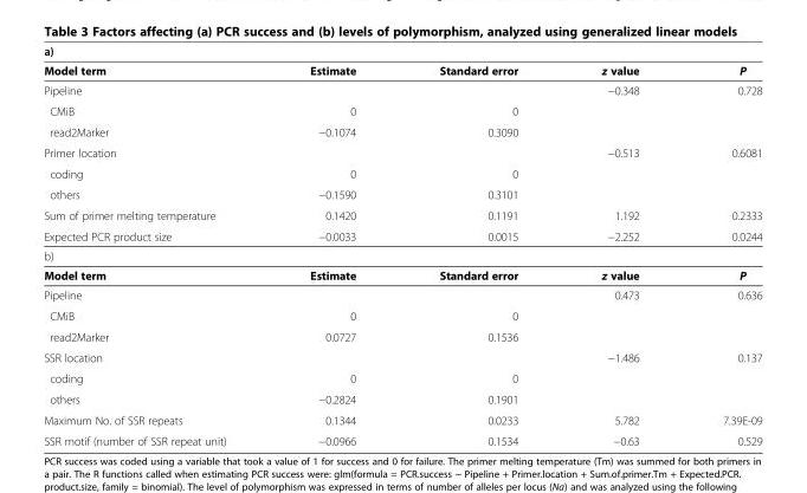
<table><thead><tr><td>a)</td><td></td><td></td><td></td><td></td></tr></thead><tbody><tr><td>Model term</td><td>Estimate</td><td>Standard error</td><td>z value</td><td>P</td></tr><tr><td>Pipeline</td><td></td><td></td><td>−0.348</td><td>0.728</td></tr><tr><td>CMiB</td><td>0</td><td>0</td><td></td><td></td></tr><tr><td>read2Marker</td><td>−0.1074</td><td>0.3090</td><td></td><td></td></tr><tr><td>Primer location</td><td></td><td></td><td>−0.513</td><td>0.6081</td></tr><tr><td>coding</td><td>0</td><td>0</td><td></td><td></td></tr><tr><td>others</td><td>−0.1590</td><td>0.3101</td><td></td><td></td></tr><tr><td>Sum of primer melting temperature</td><td>0.1420</td><td>0.1191</td><td>1.192</td><td>0.2333</td></tr><tr><td>Expected PCR product size</td><td>−0.0033</td><td>0.0015</td><td>−2.252</td><td>0.0244</td></tr><tr><td colspan="5">b)</td></tr><tr><td>Model term</td><td>Estimate</td><td>Standard error</td><td>z value</td><td>P</td></tr><tr><td>Pipeline</td><td></td><td></td><td>0.473</td><td>0.636</td></tr><tr><td>CMiB</td><td>0</td><td>0</td><td></td><td></td></tr><tr><td>read2Marker</td><td>0.0727</td><td>0.1536</td><td></td><td></td></tr><tr><td>SSR location</td><td></td><td></td><td>−1.486</td><td>0.137</td></tr><tr><td>coding</td><td>0</td><td>0</td><td></td><td></td></tr><tr><td>others</td><td>−0.2824</td><td>0.1901</td><td></td><td></td></tr><tr><td>Maximum No. of SSR repeats</td><td>0.1344</td><td>0.0233</td><td>5.782</td><td>7.39E-09</td></tr><tr><td>SSR motif (number of SSR repeat unit)</td><td>−0.0966</td><td>0.1534</td><td>−0.63</td><td>0.529</td></tr></tbody></table>